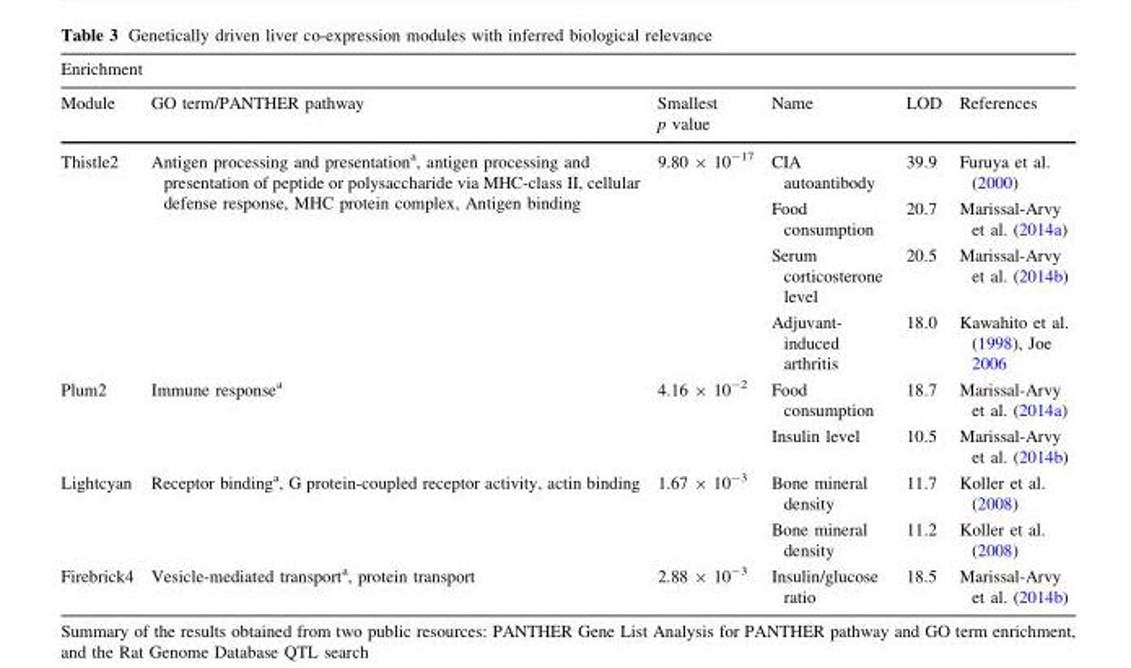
<table><thead><tr><td colspan="6">Enrichment</td></tr><tr><td>Module</td><td>GO term/PANTHER pathway</td><td>Smallest p value</td><td>Name</td><td>LOD</td><td>References</td></tr></thead><tbody><tr><td rowspan="4">Thistle2</td><td rowspan="4">Antigen processing and presentation<sup>a</sup>, antigen processing and presentation of peptide or polysaccharide via MHC-class II, cellular defense response, MHC protein complex, Antigen binding</td><td rowspan="4">9.80 × 10<sup>-17</sup></td><td>CIA autoantibody</td><td>39.9</td><td>Furuya et al. (2000)</td></tr><tr><td>Food consumption</td><td>20.7</td><td>Marissal-Arvy et al. (2014a)</td></tr><tr><td>Serum corticosterone level</td><td>20.5</td><td>Marissal-Arvy et al. (2014b)</td></tr><tr><td>Adjuvant- induced arthritis</td><td>18.0</td><td>Kawahito et al. (1998), Joe 2006</td></tr><tr><td rowspan="2">Plum2</td><td rowspan="2">Immune response<sup>a</sup></td><td rowspan="2">4.16 × 10<sup>-2</sup></td><td>Food consumption</td><td>18.7</td><td>Marissal-Arvy et al. (2014a)</td></tr><tr><td>Insulin level</td><td>10.5</td><td>Marissal-Arvy et al. (2014b)</td></tr><tr><td rowspan="2">Lightcyan</td><td rowspan="2">Receptor binding<sup>a</sup>, G protein-coupled receptor activity, actin binding</td><td rowspan="2">1.67 × 10<sup>-3</sup></td><td>Bone mineral density</td><td>11.7</td><td>Koller et al. (2008)</td></tr><tr><td>Bone mineral density</td><td>11.2</td><td>Koller et al. (2008)</td></tr><tr><td>Firebrick4</td><td>Vesicle-mediated transport<sup>a</sup>, protein transport</td><td>2.88 × 10<sup>-3</sup></td><td>Insulin/glucose ratio</td><td>18.5</td><td>Marissal-Arvy et al. (2014b)</td></tr></tbody></table>